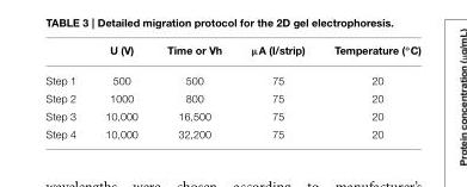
<table><thead><tr><td></td><td>U (V)</td><td>Time or Vh</td><td>µA (I/strip)</td><td>Temperature (◦C)</td></tr></thead><tbody><tr><td>Step 1</td><td>500</td><td>500</td><td>75</td><td>20</td></tr><tr><td>Step 2</td><td>1000</td><td>800</td><td>75</td><td>20</td></tr><tr><td>Step 3</td><td>10,000</td><td>16,500</td><td>75</td><td>20</td></tr><tr><td>Step 4</td><td>10,000</td><td>32,200</td><td>75</td><td>20</td></tr></tbody></table>